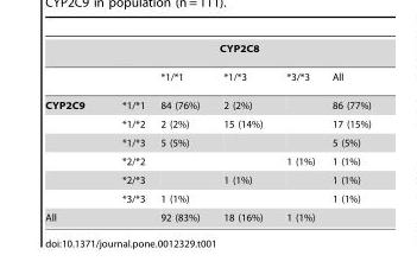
<table><thead><tr><td rowspan="2"></td><td colspan="5">CYP2C8</td></tr><tr><td></td><td>*1/*1</td><td>*1/*3</td><td>*3/*3</td><td>All</td></tr></thead><tbody><tr><td rowspan="6">CYP2C9</td><td>*1/*1</td><td>84 (76%)</td><td>2 (2%)</td><td></td><td>86 (77%)</td></tr><tr><td>*1/*2</td><td>2 (2%)</td><td>15 (14%)</td><td></td><td>17 (15%)</td></tr><tr><td>*1/*3</td><td>5 (5%)</td><td></td><td></td><td>5 (5%)</td></tr><tr><td>*2/*2</td><td></td><td></td><td>1 (1%)</td><td>1 (1%)</td></tr><tr><td>*2/*3</td><td></td><td>1 (1%)</td><td></td><td>1 (1%)</td></tr><tr><td>*3/*3</td><td>1 (1%)</td><td></td><td></td><td>1 (1%)</td></tr><tr><td>All</td><td></td><td>92 (83%)</td><td>18 (16%)</td><td>1 (1%)</td><td></td></tr></tbody></table>